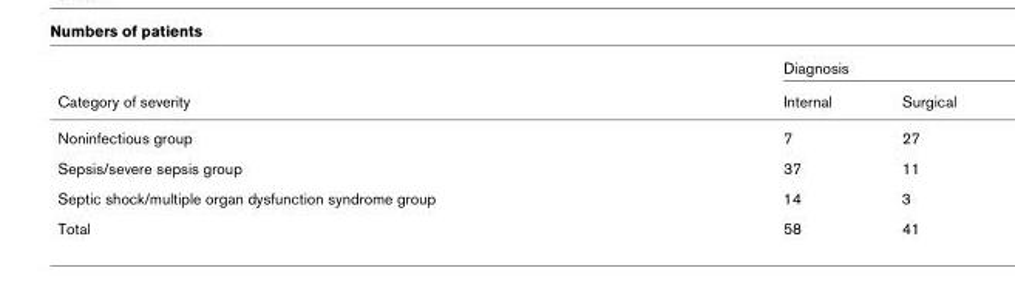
<table><thead><tr><td rowspan="2">Category of severity</td><td colspan="2">Diagnosis</td></tr><tr><td>Internal</td><td>Surgical</td></tr></thead><tbody><tr><td>Noninfectious group</td><td>7</td><td>27</td></tr><tr><td>Sepsis/severe sepsis group</td><td>37</td><td>11</td></tr><tr><td>Septic shock/multiple organ dysfunction syndrome group</td><td>14</td><td>3</td></tr><tr><td>Total</td><td>58</td><td>41</td></tr></tbody></table>